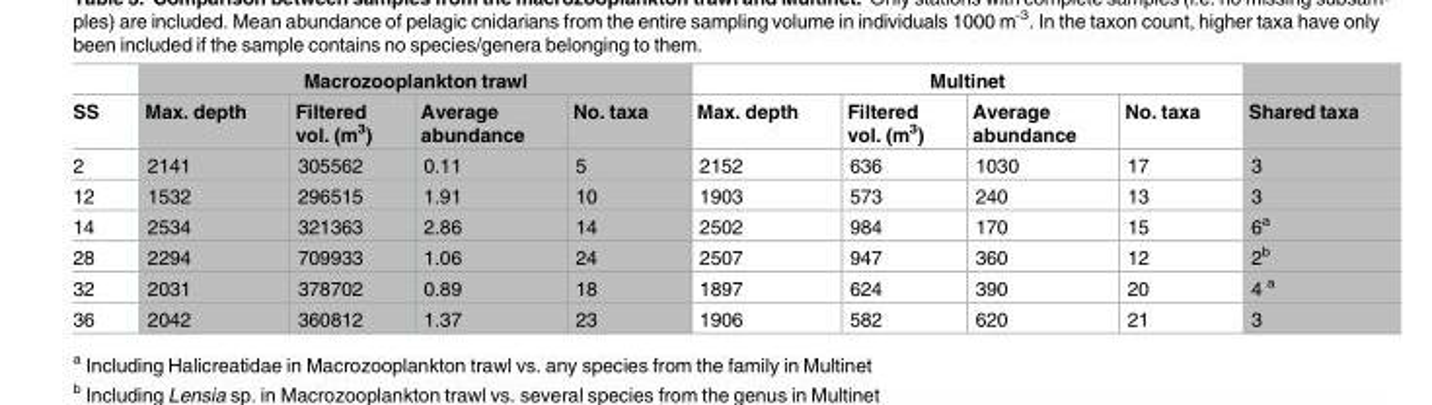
<table><thead><tr><td rowspan="2">SS</td><td colspan="4">Macrozooplankton trawl</td><td colspan="4">Multinet</td><td rowspan="2">Shared taxa</td></tr><tr><td>Max. depth</td><td>Filtered vol. (m<sup>3</sup>)</td><td>Average abundance</td><td>No. taxa</td><td>Max. depth</td><td>Filtered vol. (m<sup>3</sup>)</td><td>Average abundance</td><td>No. taxa</td></tr></thead><tbody><tr><td>2</td><td>2141</td><td>305562</td><td>0.11</td><td>5</td><td>2152</td><td>636</td><td>1030</td><td>17</td><td>3</td></tr><tr><td>12</td><td>1532</td><td>296515</td><td>1.91</td><td>10</td><td>1903</td><td>573</td><td>240</td><td>13</td><td>3</td></tr><tr><td>14</td><td>2534</td><td>321363</td><td>2.86</td><td>14</td><td>2502</td><td>984</td><td>170</td><td>15</td><td>6<sup>a</sup></td></tr><tr><td>28</td><td>2294</td><td>709933</td><td>1.06</td><td>24</td><td>2507</td><td>947</td><td>360</td><td>12</td><td>2<sup>b</sup></td></tr><tr><td>32</td><td>2031</td><td>378702</td><td>0.89</td><td>18</td><td>1897</td><td>624</td><td>390</td><td>20</td><td>4 <sup>a</sup></td></tr><tr><td>36</td><td>2042</td><td>360812</td><td>1.37</td><td>23</td><td>1906</td><td>582</td><td>620</td><td>21</td><td>3</td></tr></tbody></table>